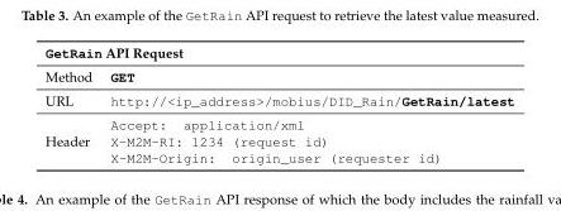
<table><thead><tr><td colspan="2">GetRain API Request</td></tr><tr><td>Method</td><td>GET</td></tr></thead><tbody><tr><td>URL</td><td>http://&lt;ip_address&gt;/mobius/DID_Rain/GetRain/latest</td></tr><tr><td rowspan="3">Header</td><td>Accept: application/xml</td></tr><tr><td>X-M2M-RI: 1234 (request id)</td></tr><tr><td>X-M2M-Origin: origin_user (requester id)</td></tr></tbody></table>